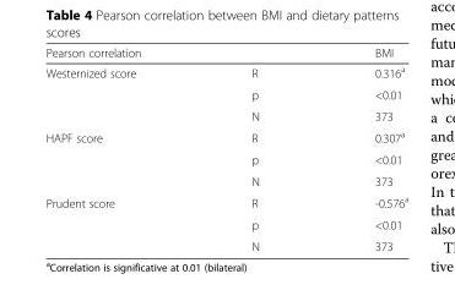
<table><thead><tr><td colspan="2">Pearson correlation</td><td rowspan="2">BMI 0.316<sup>a</sup></td></tr><tr><td>Westernized score</td><td>R</td></tr></thead><tbody><tr><td></td><td>p</td><td>&lt;0.01</td></tr><tr><td></td><td>N</td><td>373</td></tr><tr><td rowspan="3">HAPF score</td><td>R</td><td>0.307<sup>a</sup></td></tr><tr><td>p</td><td>&lt;0.01</td></tr><tr><td>N</td><td>373</td></tr><tr><td rowspan="3">Prudent score</td><td>R</td><td>-0.576<sup>a</sup></td></tr><tr><td>p</td><td>&lt;0.01</td></tr><tr><td>N</td><td>373</td></tr></tbody></table>